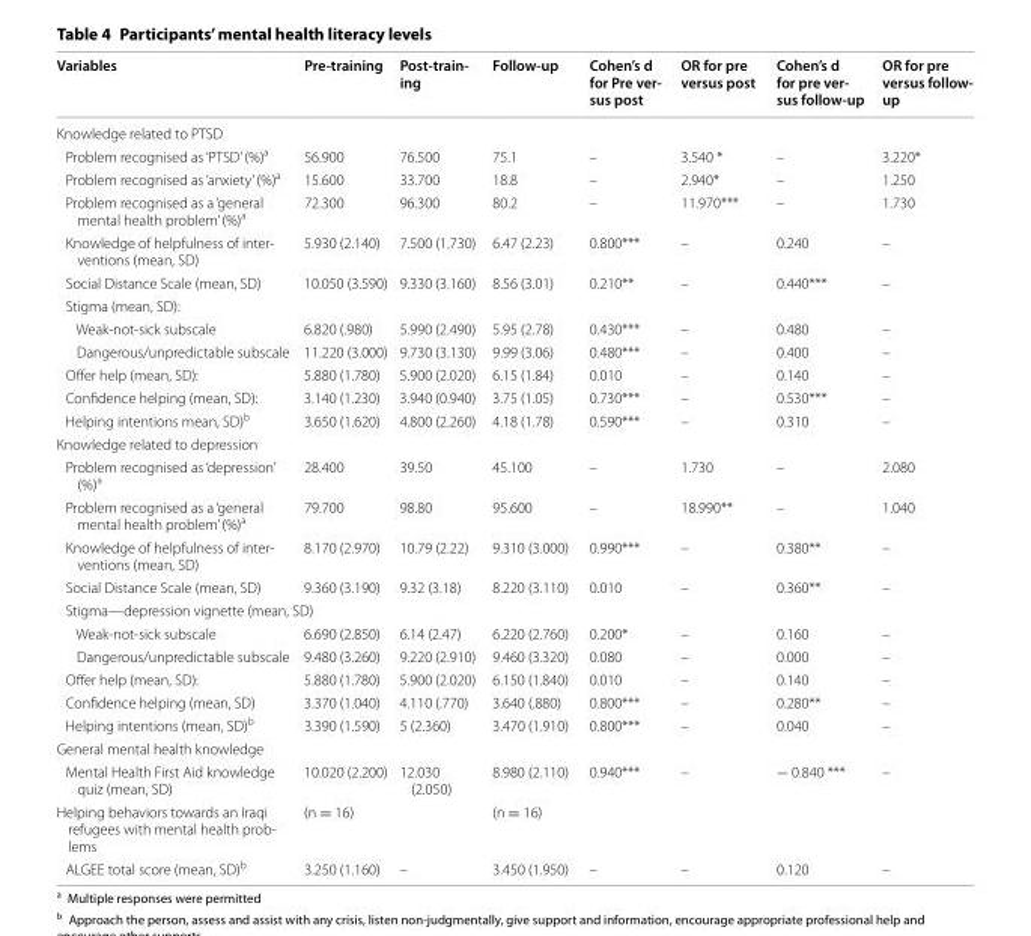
<table><thead><tr><td>Variables</td><td>Pre‑training</td><td>Post‑train‑ ing</td><td>Follow‑up</td><td>Cohen’s d for Pre ver‑ sus post</td><td>OR for pre versus post</td><td>Cohen’s d for pre ver‑ sus follow‑up</td><td>OR for pre versus follow‑ up</td></tr></thead><tbody><tr><td colspan="8">Knowledge related to PTSD</td></tr><tr><td>Problem recognised as ‘PTSD’ (%)<sup>a</sup></td><td>56.900</td><td>76.500</td><td>75.1</td><td>–</td><td>3.540 *</td><td>–</td><td>3.220*</td></tr><tr><td>Problem recognised as ‘anxiety’ (%)<sup>a</sup></td><td>15.600</td><td>33.700</td><td>18.8</td><td>–</td><td>2.940*</td><td>–</td><td>1.250</td></tr><tr><td>Problem recognised as a ‘general mental health problem’ (%)<sup>a</sup></td><td>72.300</td><td>96.300</td><td>80.2</td><td>–</td><td>11.970***</td><td>–</td><td>1.730</td></tr><tr><td>Knowledge of helpfulness of inter‑ ventions (mean, SD)</td><td>5.930 (2.140)</td><td>7.500 (1.730)</td><td>6.47 (2.23)</td><td>0.800***</td><td>–</td><td>0.240</td><td>–</td></tr><tr><td>Social Distance Scale (mean, SD)</td><td>10.050 (3.590)</td><td>9.330 (3.160)</td><td>8.56 (3.01)</td><td>0.210**</td><td>–</td><td>0.440***</td><td>–</td></tr><tr><td colspan="8">Stigma (mean, SD):</td></tr><tr><td>Weak‑not‑sick subscale</td><td>6.820 (.980)</td><td>5.990 (2.490)</td><td>5.95 (2.78)</td><td>0.430***</td><td>–</td><td>0.480</td><td>–</td></tr><tr><td>Dangerous/unpredictable subscale</td><td>11.220 (3.000)</td><td>9.730 (3.130)</td><td>9.99 (3.06)</td><td>0.480***</td><td>–</td><td>0.400</td><td>–</td></tr><tr><td>Offer help (mean, SD):</td><td>5.880 (1.780)</td><td>5.900 (2.020)</td><td>6.15 (1.84)</td><td>0.010</td><td>–</td><td>0.140</td><td>–</td></tr><tr><td>Confidence helping (mean, SD):</td><td>3.140 (1.230)</td><td>3.940 (0.940)</td><td>3.75 (1.05)</td><td>0.730***</td><td>–</td><td>0.530***</td><td>–</td></tr><tr><td>Helping intentions mean, SD)<sup>b</sup></td><td>3.650 (1.620)</td><td>4.800 (2.260)</td><td>4.18 (1.78)</td><td>0.590***</td><td>–</td><td>0.310</td><td>–</td></tr><tr><td colspan="8">Knowledge related to depression</td></tr><tr><td>Problem recognised as ‘depression’ (%)<sup>a</sup></td><td>28.400</td><td>39.50</td><td>45.100</td><td>–</td><td>1.730</td><td>–</td><td>2.080</td></tr><tr><td>Problem recognised as a ‘general mental health problem’ (%)<sup>a</sup></td><td>79.700</td><td>98.80</td><td>95.600</td><td>–</td><td>18.990**</td><td>–</td><td>1.040</td></tr><tr><td>Knowledge of helpfulness of inter‑ ventions (mean, SD)</td><td>8.170 (2.970)</td><td>10.79 (2.22)</td><td>9.310 (3.000)</td><td>0.990***</td><td>–</td><td>0.380**</td><td>–</td></tr><tr><td>Social Distance Scale (mean, SD)</td><td>9.360 (3.190)</td><td>9.32 (3.18)</td><td>8.220 (3.110)</td><td>0.010</td><td>–</td><td>0.360**</td><td>–</td></tr><tr><td colspan="8">Stigma—depression vignette (mean, SD)</td></tr><tr><td>Weak‑not‑sick subscale</td><td>6.690 (2.850)</td><td>6.14 (2.47)</td><td>6.220 (2.760)</td><td>0.200*</td><td>–</td><td>0.160</td><td>–</td></tr><tr><td>Dangerous/unpredictable subscale</td><td>9.480 (3.260)</td><td>9.220 (2.910)</td><td>9.460 (3.320)</td><td>0.080</td><td>–</td><td>0.000</td><td>–</td></tr><tr><td>Offer help (mean, SD):</td><td>5.880 (1.780)</td><td>5.900 (2.020)</td><td>6.150 (1.840)</td><td>0.010</td><td>–</td><td>0.140</td><td>–</td></tr><tr><td>Confidence helping (mean, SD)</td><td>3.370 (1.040)</td><td>4.110 (.770)</td><td>3.640 (.880)</td><td>0.800***</td><td>–</td><td>0.280**</td><td>–</td></tr><tr><td>Helping intentions (mean, SD)<sup>b</sup></td><td>3.390 (1.590)</td><td>5 (2.360)</td><td>3.470 (1.910)</td><td>0.800***</td><td>–</td><td>0.040</td><td>–</td></tr><tr><td colspan="8">General mental health knowledge</td></tr><tr><td>Mental Health First Aid knowledge quiz (mean, SD)</td><td>10.020 (2.200)</td><td>12.030 (2.050)</td><td>8.980 (2.110)</td><td>0.940***</td><td>–</td><td>− 0.840 ***</td><td>–</td></tr><tr><td>Helping behaviors towards an Iraqi refugees with mental health prob‑ lems</td><td>(n = 16)</td><td></td><td>(n = 16)</td><td></td><td></td><td></td><td></td></tr><tr><td>ALGEE total score (mean, SD)<sup>b</sup></td><td>3.250 (1.160)</td><td>–</td><td>3.450 (1.950)</td><td>–</td><td>–</td><td>0.120</td><td>–</td></tr></tbody></table>